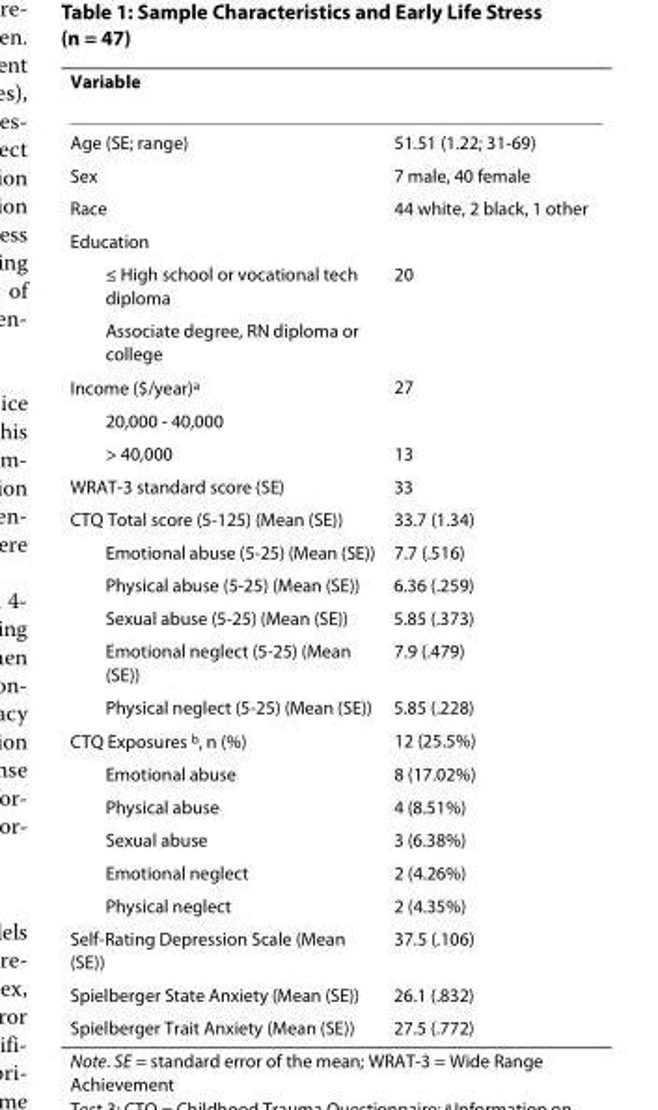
<table><thead><tr><td>Variable</td><td></td></tr></thead><tbody><tr><td>Age (SE; range)</td><td>51.51 (1.22; 31-69)</td></tr><tr><td>Sex</td><td>7 male, 40 female</td></tr><tr><td>Race</td><td>44 white, 2 black, 1 other</td></tr><tr><td colspan="2">Education</td></tr><tr><td>≤ High school or vocational tech diploma</td><td>20</td></tr><tr><td colspan="2">Associate degree, RN diploma or college</td></tr><tr><td>Income ($/year)<sup>a</sup></td><td>27</td></tr><tr><td colspan="2">20,000 - 40,000</td></tr><tr><td>&gt; 40,000</td><td>13</td></tr><tr><td>WRAT-3 standard score (SE)</td><td>33</td></tr><tr><td>CTQ Total score (5-125) (Mean (SE))</td><td>33.7 (1.34)</td></tr><tr><td>Emotional abuse (5-25) (Mean (SE))</td><td>7.7 (.516)</td></tr><tr><td>Physical abuse (5-25) (Mean (SE))</td><td>6.36 (.259)</td></tr><tr><td>Sexual abuse (5-25) (Mean (SE))</td><td>5.85 (.373)</td></tr><tr><td>Emotional neglect (5-25) (Mean (SE))</td><td>7.9 (.479)</td></tr><tr><td>Physical neglect (5-25) (Mean (SE))</td><td>5.85 (.228)</td></tr><tr><td>CTQ Exposures <sup>b</sup>, n (%)</td><td>12 (25.5%)</td></tr><tr><td>Emotional abuse</td><td>8 (17.02%)</td></tr><tr><td>Physical abuse</td><td>4 (8.51%)</td></tr><tr><td>Sexual abuse</td><td>3 (6.38%)</td></tr><tr><td>Emotional neglect</td><td>2 (4.26%)</td></tr><tr><td>Physical neglect</td><td>2 (4.35%)</td></tr><tr><td>Self-Rating Depression Scale (Mean (SE))</td><td>37.5 (.106)</td></tr><tr><td>Spielberger State Anxiety (Mean (SE))</td><td>26.1 (.832)</td></tr><tr><td>Spielberger Trait Anxiety (Mean (SE))</td><td>27.5 (.772)</td></tr></tbody></table>